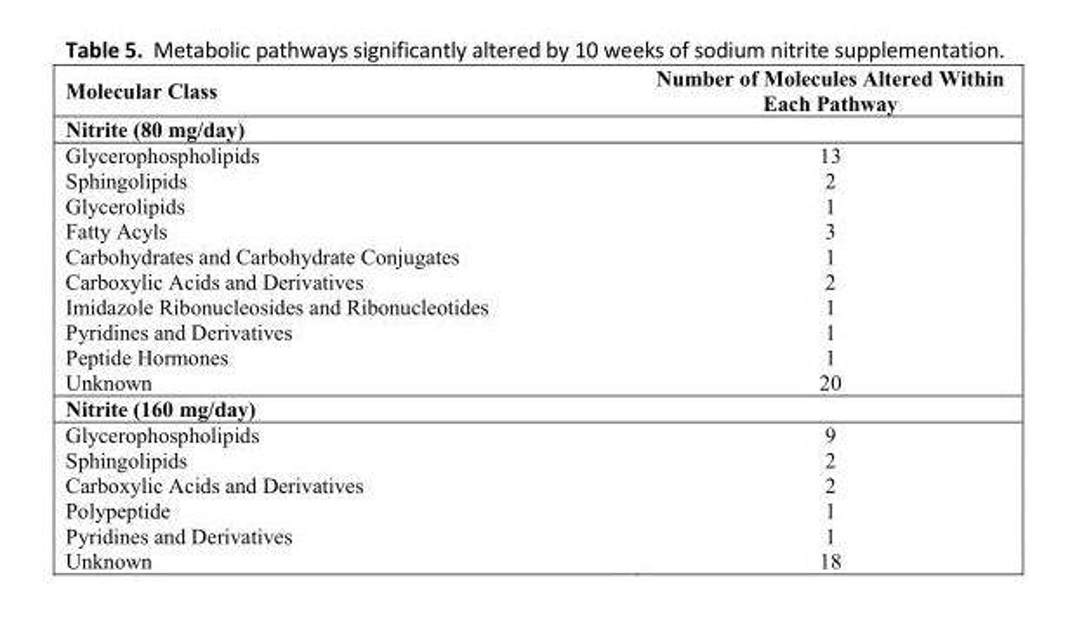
<table><thead><tr><td>Molecular Class</td><td>Number of Molecules Altered Within Each Pathway</td></tr></thead><tbody><tr><td colspan="2">Nitrite (80 mg/day)</td></tr><tr><td>Glycerophospholipids</td><td>13</td></tr><tr><td>Sphingolipids</td><td>2</td></tr><tr><td>Glycerolipids</td><td>1</td></tr><tr><td>Fatty Acyls</td><td>3</td></tr><tr><td>Carbohydrates and Carbohydrate Conjugates</td><td>1</td></tr><tr><td>Carboxylic Acids and Derivatives</td><td>2</td></tr><tr><td>Imidazole Ribonucleosides and Ribonucleotides</td><td>1</td></tr><tr><td>Pyridines and Derivatives</td><td>1</td></tr><tr><td>Peptide Hormones</td><td>1</td></tr><tr><td>Unknown</td><td>20</td></tr><tr><td colspan="2">Nitrite (160 mg/day)</td></tr><tr><td>Glycerophospholipids</td><td>9</td></tr><tr><td>Sphingolipids</td><td>2</td></tr><tr><td>Carboxylic Acids and Derivatives</td><td>2</td></tr><tr><td>Polypeptide</td><td>1</td></tr><tr><td>Pyridines and Derivatives</td><td>1</td></tr><tr><td>Unknown</td><td>18</td></tr></tbody></table>